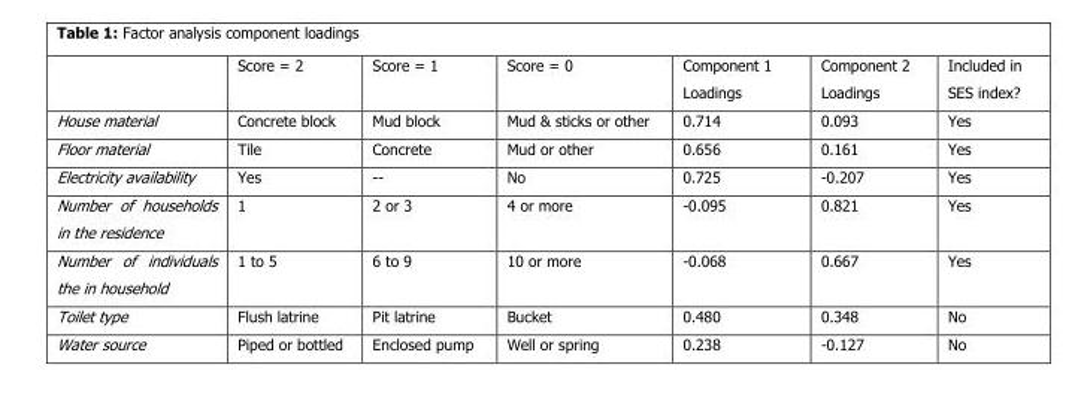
<table><thead><tr><td></td><td>Score = 2</td><td>Score = 1</td><td>Score = 0</td><td>Component 1 Loadings</td><td>Component 2 Loadings</td><td>Included in SES index?</td></tr></thead><tbody><tr><td>House material</td><td>Concrete block</td><td>Mud block</td><td>Mud &amp; sticks or other</td><td>0.714</td><td>0.093</td><td>Yes</td></tr><tr><td>Floor material</td><td>Tile</td><td>Concrete</td><td>Mud or other</td><td>0.656</td><td>0.161</td><td>Yes</td></tr><tr><td>Electricity availability</td><td>Yes</td><td>--</td><td>No</td><td>0.725</td><td>-0.207</td><td>Yes</td></tr><tr><td>Number of households in the residence</td><td>1</td><td>2 or 3</td><td>4 or more</td><td>-0.095</td><td>0.821</td><td>Yes</td></tr><tr><td>Number of individuals the in household</td><td>1 to 5</td><td>6 to 9</td><td>10 or more</td><td>-0.068</td><td>0.667</td><td>Yes</td></tr><tr><td>Toilet type</td><td>Flush latrine</td><td>Pit latrine</td><td>Bucket</td><td>0.480</td><td>0.348</td><td>No</td></tr><tr><td>Water source</td><td>Piped or bottled</td><td>Enclosed pump</td><td>Well or spring</td><td>0.238</td><td>-0.127</td><td>No</td></tr></tbody></table>